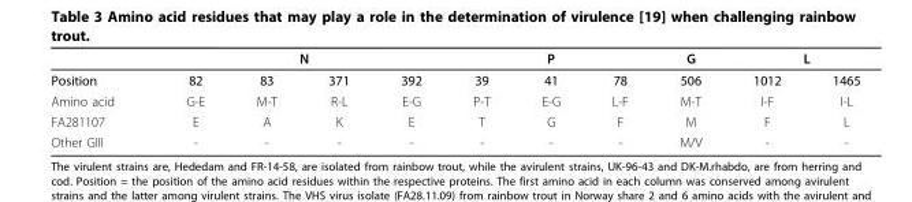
<table><thead><tr><td rowspan="2">Position</td><td colspan="4">N</td><td colspan="3">P</td><td rowspan="2">G 506</td><td colspan="2">L</td></tr><tr><td>82</td><td>83</td><td>371</td><td>392</td><td>39</td><td>41</td><td>78</td><td>1012</td><td>1465</td></tr></thead><tbody><tr><td>Amino acid</td><td>G-E</td><td>M-T</td><td>R-L</td><td>E-G</td><td>P-T</td><td>E-G</td><td>L-F</td><td>M-T</td><td>I-F</td><td>I-L</td></tr><tr><td>FA281107</td><td>E</td><td>A</td><td>K</td><td>E</td><td>T</td><td>G</td><td>F</td><td>M</td><td>F</td><td>L</td></tr><tr><td>Other GIII</td><td>-</td><td>-</td><td>-</td><td>-</td><td>-</td><td>-</td><td>-</td><td>M/V</td><td>-</td><td>-</td></tr></tbody></table>